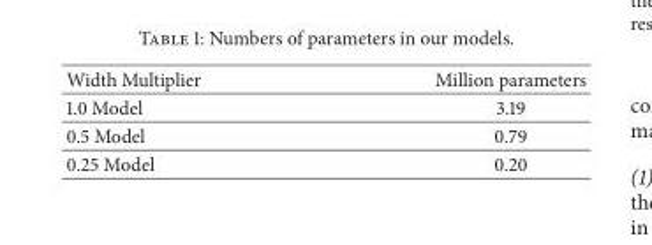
<table><thead><tr><td>Width Multiplier</td><td>Million parameters</td></tr></thead><tbody><tr><td>1.0 Model</td><td>3.19</td></tr><tr><td>0.5 Model</td><td>0.79</td></tr><tr><td>0.25 Model</td><td>0.20</td></tr></tbody></table>